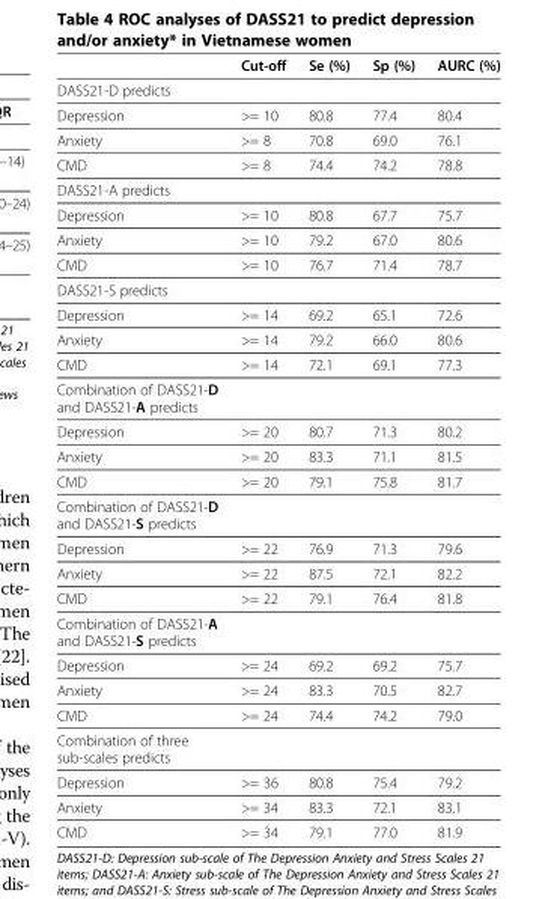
<table><thead><tr><td></td><td>Cut-off</td><td>Se (%)</td><td>Sp (%)</td><td>AURC (%)</td></tr></thead><tbody><tr><td colspan="5">DASS21-D predicts</td></tr><tr><td>Depression</td><td>&gt;= 10</td><td>80.8</td><td>77.4</td><td>80.4</td></tr><tr><td>Anxiety</td><td>&gt;= 8</td><td>70.8</td><td>69.0</td><td>76.1</td></tr><tr><td>CMD</td><td>&gt;= 8</td><td>74.4</td><td>74.2</td><td>78.8</td></tr><tr><td colspan="5">DASS21-A predicts</td></tr><tr><td>Depression</td><td>&gt;= 10</td><td>80.8</td><td>67.7</td><td>75.7</td></tr><tr><td>Anxiety</td><td>&gt;= 10</td><td>79.2</td><td>67.0</td><td>80.6</td></tr><tr><td>CMD</td><td>&gt;= 10</td><td>76.7</td><td>71.4</td><td>78.7</td></tr><tr><td colspan="5">DASS21-S predicts</td></tr><tr><td>Depression</td><td>&gt;= 14</td><td>69.2</td><td>65.1</td><td>72.6</td></tr><tr><td>Anxiety</td><td>&gt;= 14</td><td>79.2</td><td>66.0</td><td>80.6</td></tr><tr><td>CMD</td><td>&gt;= 14</td><td>72.1</td><td>69.1</td><td>77.3</td></tr><tr><td colspan="5">Combination of DASS21-D and DASS21-A predicts</td></tr><tr><td>Depression</td><td>&gt;= 20</td><td>80.7</td><td>71.3</td><td>80.2</td></tr><tr><td>Anxiety</td><td>&gt;= 20</td><td>83.3</td><td>71.1</td><td>81.5</td></tr><tr><td>CMD</td><td>&gt;= 20</td><td>79.1</td><td>75.8</td><td>81.7</td></tr><tr><td colspan="5">Combination of DASS21-D and DASS21-S predicts</td></tr><tr><td>Depression</td><td>&gt;= 22</td><td>76.9</td><td>71.3</td><td>79.6</td></tr><tr><td>Anxiety</td><td>&gt;= 22</td><td>87.5</td><td>72.1</td><td>82.2</td></tr><tr><td>CMD</td><td>&gt;= 22</td><td>79.1</td><td>76.4</td><td>81.8</td></tr><tr><td colspan="5">Combination of DASS21-A and DASS21-S predicts</td></tr><tr><td>Depression</td><td>&gt;= 24</td><td>69.2</td><td>69.2</td><td>75.7</td></tr><tr><td>Anxiety</td><td>&gt;= 24</td><td>83.3</td><td>70.5</td><td>82.7</td></tr><tr><td>CMD</td><td>&gt;= 24</td><td>74.4</td><td>74.2</td><td>79.0</td></tr><tr><td colspan="5">Combination of three sub-scales predicts</td></tr><tr><td>Depression</td><td>&gt;= 36</td><td>80.8</td><td>75.4</td><td>79.2</td></tr><tr><td>Anxiety</td><td>&gt;= 34</td><td>83.3</td><td>72.1</td><td>83.1</td></tr><tr><td>CMD</td><td>&gt;= 34</td><td>79.1</td><td>77.0</td><td>81.9</td></tr></tbody></table>